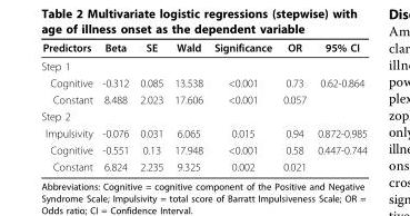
<table><thead><tr><td>Predictors</td><td>Beta</td><td>SE</td><td>Wald</td><td>Significance</td><td>OR</td><td>95% CI</td></tr></thead><tbody><tr><td colspan="7">Step 1</td></tr><tr><td>Cognitive</td><td>-0.312</td><td>0.085</td><td>13.538</td><td>&lt;0.001</td><td>0.73</td><td>0.62-0.864</td></tr><tr><td>Constant</td><td>8.488</td><td>2.023</td><td>17.606</td><td>&lt;0.001</td><td>0.057</td><td></td></tr><tr><td colspan="7">Step 2</td></tr><tr><td>Impulsivity</td><td>-0.076</td><td>0.031</td><td>6.065</td><td>0.015</td><td>0.94</td><td>0.872-0.985</td></tr><tr><td>Cognitive</td><td>-0.551</td><td>0.13</td><td>17.948</td><td>&lt;0.001</td><td>0.58</td><td>0.447-0.744</td></tr><tr><td>Constant</td><td>6.824</td><td>2.235</td><td>9.325</td><td>0.002</td><td>0.021</td><td></td></tr></tbody></table>